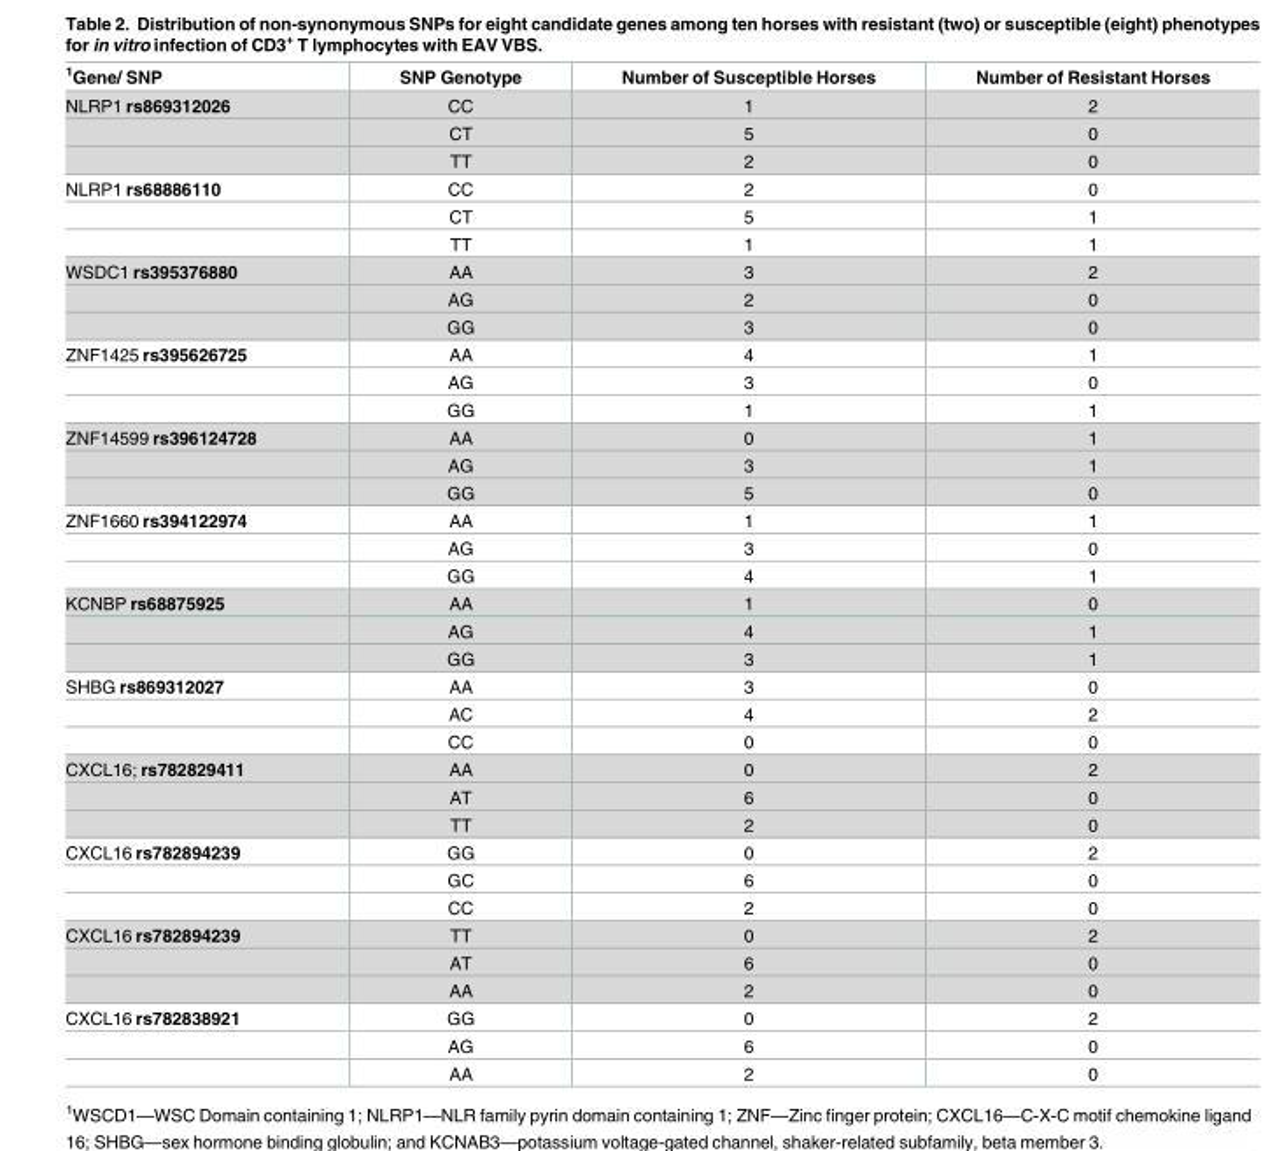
<table><thead><tr><td><sup>1</sup>Gene/ SNP</td><td>SNP Genotype</td><td>Number of Susceptible Horses</td><td>Number of Resistant Horses</td></tr></thead><tbody><tr><td rowspan="3">NLRP1 rs869312026</td><td>CC</td><td>1</td><td>2</td></tr><tr><td>CT</td><td>5</td><td>0</td></tr><tr><td>TT</td><td>2</td><td>0</td></tr><tr><td rowspan="3">NLRP1 rs68886110</td><td>CC</td><td>2</td><td>0</td></tr><tr><td>CT</td><td>5</td><td>1</td></tr><tr><td>TT</td><td>1</td><td>1</td></tr><tr><td rowspan="3">WSDC1 rs395376880</td><td>AA</td><td>3</td><td>2</td></tr><tr><td>AG</td><td>2</td><td>0</td></tr><tr><td>GG</td><td>3</td><td>0</td></tr><tr><td rowspan="3">ZNF1425 rs395626725</td><td>AA</td><td>4</td><td>1</td></tr><tr><td>AG</td><td>3</td><td>0</td></tr><tr><td>GG</td><td>1</td><td>1</td></tr><tr><td rowspan="3">ZNF14599 rs396124728</td><td>AA</td><td>0</td><td>1</td></tr><tr><td>AG</td><td>3</td><td>1</td></tr><tr><td>GG</td><td>5</td><td>0</td></tr><tr><td rowspan="3">ZNF1660 rs394122974</td><td>AA</td><td>1</td><td>1</td></tr><tr><td>AG</td><td>3</td><td>0</td></tr><tr><td>GG</td><td>4</td><td>1</td></tr><tr><td rowspan="3">KCNBP rs68875925</td><td>AA</td><td>1</td><td>0</td></tr><tr><td>AG</td><td>4</td><td>1</td></tr><tr><td>GG</td><td>3</td><td>1</td></tr><tr><td rowspan="3">SHBG rs869312027</td><td>AA</td><td>3</td><td>0</td></tr><tr><td>AC</td><td>4</td><td>2</td></tr><tr><td>CC</td><td>0</td><td>0</td></tr><tr><td rowspan="3">CXCL16; rs782829411</td><td>AA</td><td>0</td><td>2</td></tr><tr><td>AT</td><td>6</td><td>0</td></tr><tr><td>TT</td><td>2</td><td>0</td></tr><tr><td rowspan="3">CXCL16 rs782894239</td><td>GG</td><td>0</td><td>2</td></tr><tr><td>GC</td><td>6</td><td>0</td></tr><tr><td>CC</td><td>2</td><td>0</td></tr><tr><td rowspan="3">CXCL16 rs782894239</td><td>TT</td><td>0</td><td>2</td></tr><tr><td>AT</td><td>6</td><td>0</td></tr><tr><td>AA</td><td>2</td><td>0</td></tr><tr><td rowspan="3">CXCL16 rs782838921</td><td>GG</td><td>0</td><td>2</td></tr><tr><td>AG</td><td>6</td><td>0</td></tr><tr><td>AA</td><td>2</td><td>0</td></tr></tbody></table>